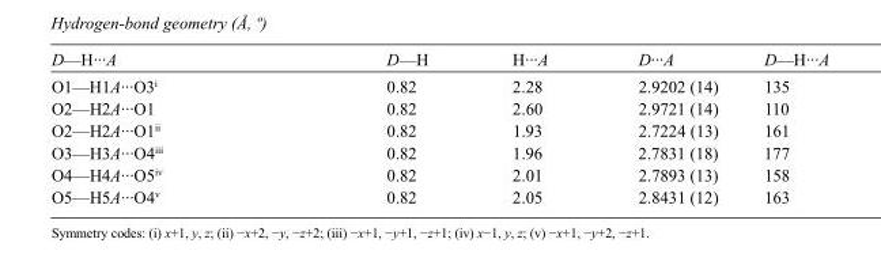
<table><tbody><tr><td>D—H···A</td><td>D—H</td><td>H···A</td><td>D···A</td><td>D—H···A</td></tr><tr><td>O1—H1A···O3<sup>i</sup></td><td>0.82</td><td>2.28</td><td>2.9202 (14)</td><td>135</td></tr><tr><td>O2—H2A···O1</td><td>0.82</td><td>2.60</td><td>2.9721 (14)</td><td>110</td></tr><tr><td>O2—H2A···O1<sup>ii</sup></td><td>0.82</td><td>1.93</td><td>2.7224 (13)</td><td>161</td></tr><tr><td>O3—H3A···O4<sup>iii</sup></td><td>0.82</td><td>1.96</td><td>2.7831 (18)</td><td>177</td></tr><tr><td>O4—H4A···O5<sup>iv</sup></td><td>0.82</td><td>2.01</td><td>2.7893 (13)</td><td>158</td></tr><tr><td>O5—H5A···O4<sup>v</sup></td><td>0.82</td><td>2.05</td><td>2.8431 (12)</td><td>163</td></tr></tbody></table>